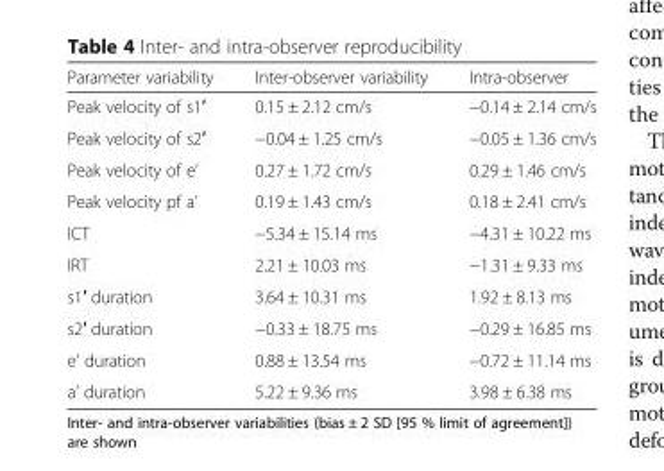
<table><thead><tr><td>Parameter variability</td><td>Inter-observer variability</td><td>Intra-observer</td></tr></thead><tbody><tr><td>Peak velocity of s1′</td><td>0.15 ± 2.12 cm/s</td><td>−0.14 ± 2.14 cm/s</td></tr><tr><td>Peak velocity of s2′</td><td>−0.04 ± 1.25 cm/s</td><td>−0.05 ± 1.36 cm/s</td></tr><tr><td>Peak velocity of e’</td><td>0.27 ± 1.72 cm/s</td><td>0.29 ± 1.46 cm/s</td></tr><tr><td>Peak velocity pf a’</td><td>0.19 ± 1.43 cm/s</td><td>0.18 ± 2.41 cm/s</td></tr><tr><td>ICT</td><td>−5.34 ± 15.14 ms</td><td>−4.31 ± 10.22 ms</td></tr><tr><td>IRT</td><td>2.21 ± 10.03 ms</td><td>−1.31 ± 9.33 ms</td></tr><tr><td>s1′ duration</td><td>3.64 ± 10.31 ms</td><td>1.92 ± 8.13 ms</td></tr><tr><td>s2′ duration</td><td>−0.33 ± 18.75 ms</td><td>−0.29 ± 16.85 ms</td></tr><tr><td>e’ duration</td><td>0.88 ± 13.54 ms</td><td>−0.72 ± 11.14 ms</td></tr><tr><td>a’ duration</td><td>5.22 ± 9.36 ms</td><td>3.98 ± 6.38 ms</td></tr></tbody></table>